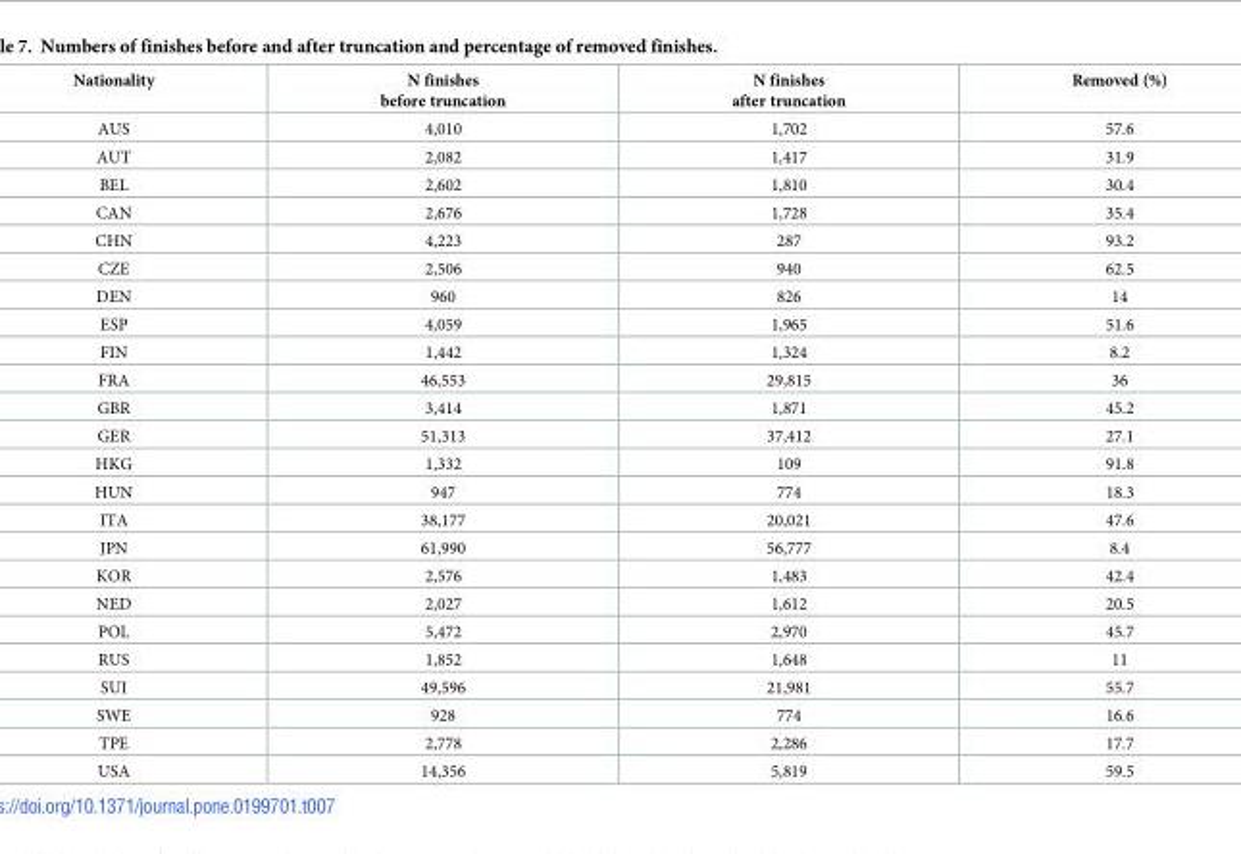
<table><thead><tr><td>Nationality</td><td>N finishes before truncation</td><td>N finishes after truncation</td><td>Removed (%)</td></tr></thead><tbody><tr><td>AUS</td><td>4,010</td><td>1,702</td><td>57.6</td></tr><tr><td>AUT</td><td>2,082</td><td>1,417</td><td>31.9</td></tr><tr><td>BEL</td><td>2,602</td><td>1,810</td><td>30.4</td></tr><tr><td>CAN</td><td>2,676</td><td>1,728</td><td>35.4</td></tr><tr><td>CHN</td><td>4,223</td><td>287</td><td>93.2</td></tr><tr><td>CZE</td><td>2,506</td><td>940</td><td>62.5</td></tr><tr><td>DEN</td><td>960</td><td>826</td><td>14</td></tr><tr><td>ESP</td><td>4,059</td><td>1,965</td><td>51.6</td></tr><tr><td>FIN</td><td>1,442</td><td>1,324</td><td>8.2</td></tr><tr><td>FRA</td><td>46,553</td><td>29,815</td><td>36</td></tr><tr><td>GBR</td><td>3,414</td><td>1,871</td><td>45.2</td></tr><tr><td>GER</td><td>51,313</td><td>37,412</td><td>27.1</td></tr><tr><td>HKG</td><td>1,332</td><td>109</td><td>91.8</td></tr><tr><td>HUN</td><td>947</td><td>774</td><td>18.3</td></tr><tr><td>ITA</td><td>38,177</td><td>20,021</td><td>47.6</td></tr><tr><td>JPN</td><td>61,990</td><td>56,777</td><td>8.4</td></tr><tr><td>KOR</td><td>2,576</td><td>1,483</td><td>42.4</td></tr><tr><td>NED</td><td>2,027</td><td>1,612</td><td>20.5</td></tr><tr><td>POL</td><td>5,472</td><td>2,970</td><td>45.7</td></tr><tr><td>RUS</td><td>1,852</td><td>1,648</td><td>11</td></tr><tr><td>SUI</td><td>49,596</td><td>21,981</td><td>55.7</td></tr><tr><td>SWE</td><td>928</td><td>774</td><td>16.6</td></tr><tr><td>TPE</td><td>2,778</td><td>2,286</td><td>17.7</td></tr><tr><td>USA</td><td>14,356</td><td>5,819</td><td>59.5</td></tr></tbody></table>